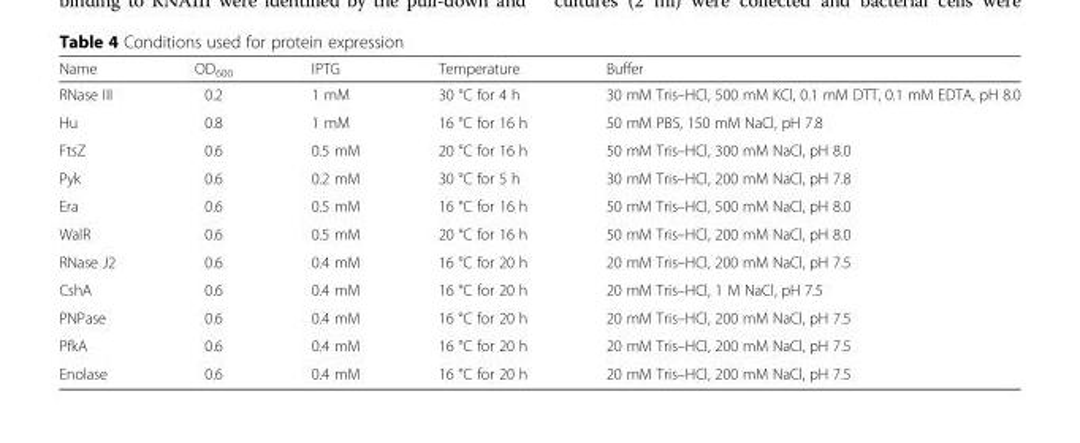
<table><thead><tr><td>Name</td><td>OD<sub>600</sub></td><td>IPTG</td><td>Temperature</td><td>Buffer</td></tr></thead><tbody><tr><td>RNase III</td><td>0.2</td><td>1 mM</td><td>30 °C for 4 h</td><td>30 mM Tris–HCl, 500 mM KCl, 0.1 mM DTT, 0.1 mM EDTA, pH 8.0</td></tr><tr><td>Hu</td><td>0.8</td><td>1 mM</td><td>16 °C for 16 h</td><td>50 mM PBS, 150 mM NaCl, pH 7.8</td></tr><tr><td>FtsZ</td><td>0.6</td><td>0.5 mM</td><td>20 °C for 16 h</td><td>50 mM Tris–HCl, 300 mM NaCl, pH 8.0</td></tr><tr><td>Pyk</td><td>0.6</td><td>0.2 mM</td><td>30 °C for 5 h</td><td>30 mM Tris–HCl, 200 mM NaCl, pH 7.8</td></tr><tr><td>Era</td><td>0.6</td><td>0.5 mM</td><td>16 °C for 16 h</td><td>50 mM Tris–HCl, 500 mM NaCl, pH 8.0</td></tr><tr><td>WalR</td><td>0.6</td><td>0.5 mM</td><td>20 °C for 16 h</td><td>50 mM Tris–HCl, 200 mM NaCl, pH 8.0</td></tr><tr><td>RNase J2</td><td>0.6</td><td>0.4 mM</td><td>16 °C for 20 h</td><td>20 mM Tris–HCl, 200 mM NaCl, pH 7.5</td></tr><tr><td>CshA</td><td>0.6</td><td>0.4 mM</td><td>16 °C for 20 h</td><td>20 mM Tris–HCl, 1 M NaCl, pH 7.5</td></tr><tr><td>PNPase</td><td>0.6</td><td>0.4 mM</td><td>16 °C for 20 h</td><td>20 mM Tris–HCl, 200 mM NaCl, pH 7.5</td></tr><tr><td>PfkA</td><td>0.6</td><td>0.4 mM</td><td>16 °C for 20 h</td><td>20 mM Tris–HCl, 200 mM NaCl, pH 7.5</td></tr><tr><td>Enolase</td><td>0.6</td><td>0.4 mM</td><td>16 °C for 20 h</td><td>20 mM Tris–HCl, 200 mM NaCl, pH 7.5</td></tr></tbody></table>